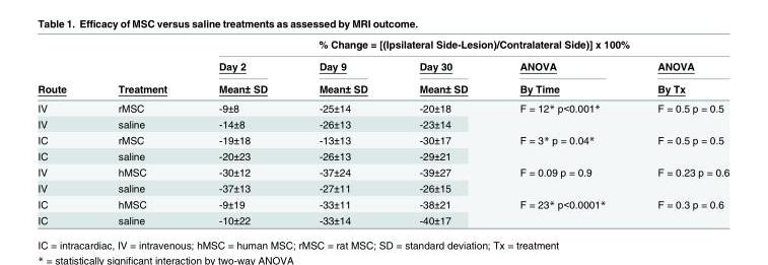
<table><thead><tr><td rowspan="3">Route</td><td rowspan="3">Treatment</td><td colspan="5">% Change = [(Ipsilateral Side-Lesion)/Contralateral Side)] x 100%</td></tr><tr><td rowspan="2">Day 2 Mean± SD</td><td rowspan="2">Day 9 Mean± SD</td><td rowspan="2">Day 30 Mean± SD</td><td rowspan="2">ANOVA By Time</td><td rowspan="2">ANOVA By Tx</td></tr><tr></tr></thead><tbody><tr><td>IV</td><td>rMSC</td><td>-9±8</td><td>-25±14</td><td>-20±18</td><td rowspan="2">F = 12* p&lt;0.001*</td><td rowspan="2">F = 0.5 p = 0.5</td></tr><tr><td>IV</td><td>saline</td><td>-14±8</td><td>-26±13</td><td>-23±14</td></tr><tr><td>IC</td><td>rMSC</td><td>-19±18</td><td>-13±13</td><td>-30±17</td><td rowspan="2">F = 3* p = 0.04*</td><td rowspan="2">F = 0.5 p = 0.5</td></tr><tr><td>IC</td><td>saline</td><td>-20±23</td><td>-26±13</td><td>-29±21</td></tr><tr><td>IV</td><td>hMSC</td><td>-30±12</td><td>-37±24</td><td>-39±27</td><td rowspan="2">F = 0.09 p = 0.9</td><td rowspan="2">F = 0.23 p = 0.6</td></tr><tr><td>IV</td><td>saline</td><td>-37±13</td><td>-27±11</td><td>-26±15</td></tr><tr><td>IC</td><td>hMSC</td><td>-9±19</td><td>-33±11</td><td>-38±21</td><td rowspan="2">F = 23* p&lt;0.0001*</td><td rowspan="2">F = 0.3 p = 0.6</td></tr><tr><td>IC</td><td>saline</td><td>-10±22</td><td>-33±14</td><td>-40±17</td></tr></tbody></table>